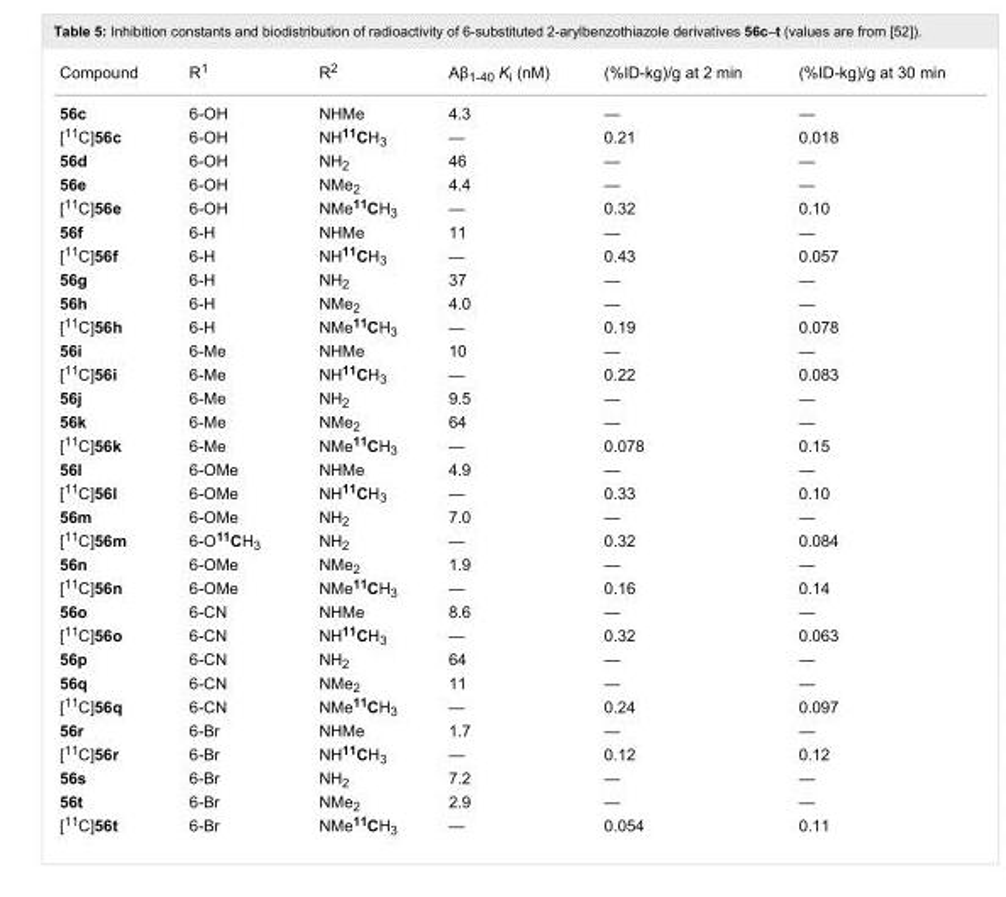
<table><tbody><tr><td>Compound</td><td>R<sup>1</sup></td><td>R<sup>2</sup></td><td>Aβ<sub>1-40</sub> K<sub>i</sub> (nM)</td><td>(%ID-kg)/g at 2 min</td><td>(%ID-kg)/g at 30 min</td></tr><tr><td>56c</td><td>6-OH</td><td>NHMe</td><td>4.3</td><td>—</td><td>—</td></tr><tr><td>[<sup>11</sup>C]56c</td><td>6-OH</td><td>NH<sup>11</sup>CH<sub>3</sub></td><td>—</td><td>0.21</td><td>0.018</td></tr><tr><td>56d</td><td>6-OH</td><td>NH<sub>2</sub></td><td>46</td><td>—</td><td>—</td></tr><tr><td>56e</td><td>6-OH</td><td>NMe<sub>2</sub></td><td>4.4</td><td>—</td><td>—</td></tr><tr><td>[<sup>11</sup>C]56e</td><td>6-OH</td><td>NMe<sup>11</sup>CH<sub>3</sub></td><td>—</td><td>0.32</td><td>0.10</td></tr><tr><td>56f</td><td>6-H</td><td>NHMe</td><td>11</td><td>—</td><td>—</td></tr><tr><td>[<sup>11</sup>C]56f</td><td>6-H</td><td>NH<sup>11</sup>CH<sub>3</sub></td><td>—</td><td>0.43</td><td>0.057</td></tr><tr><td>56g</td><td>6-H</td><td>NH<sub>2</sub></td><td>37</td><td>—</td><td>—</td></tr><tr><td>56h</td><td>6-H</td><td>NMe<sub>2</sub></td><td>4.0</td><td>—</td><td>—</td></tr><tr><td>[<sup>11</sup>C]56h</td><td>6-H</td><td>NMe<sup>11</sup>CH<sub>3</sub></td><td>—</td><td>0.19</td><td>0.078</td></tr><tr><td>56i</td><td>6-Me</td><td>NHMe</td><td>10</td><td>—</td><td>—</td></tr><tr><td>[<sup>11</sup>C]56i</td><td>6-Me</td><td>NH<sup>11</sup>CH<sub>3</sub></td><td>—</td><td>0.22</td><td>0.083</td></tr><tr><td>56j</td><td>6-Me</td><td>NH<sub>2</sub></td><td>9.5</td><td>—</td><td>—</td></tr><tr><td>56k</td><td>6-Me</td><td>NMe<sub>2</sub></td><td>64</td><td>—</td><td>—</td></tr><tr><td>[<sup>11</sup>C]56k</td><td>6-Me</td><td>NMe<sup>11</sup>CH<sub>3</sub></td><td>—</td><td>0.078</td><td>0.15</td></tr><tr><td>56l</td><td>6-OMe</td><td>NHMe</td><td>4.9</td><td>—</td><td>—</td></tr><tr><td>[<sup>11</sup>C]56l</td><td>6-OMe</td><td>NH<sup>11</sup>CH<sub>3</sub></td><td>—</td><td>0.33</td><td>0.10</td></tr><tr><td>56m</td><td>6-OMe</td><td>NH<sub>2</sub></td><td>7.0</td><td>—</td><td>—</td></tr><tr><td>[<sup>11</sup>C]56m</td><td>6-O<sup>11</sup>CH<sub>3</sub></td><td>NH<sub>2</sub></td><td>—</td><td>0.32</td><td>0.084</td></tr><tr><td>56n</td><td>6-OMe</td><td>NMe<sub>2</sub></td><td>1.9</td><td>—</td><td>—</td></tr><tr><td>[<sup>11</sup>C]56n</td><td>6-OMe</td><td>NMe<sup>11</sup>CH<sub>3</sub></td><td>—</td><td>0.16</td><td>0.14</td></tr><tr><td>56o</td><td>6-CN</td><td>NHMe</td><td>8.6</td><td>—</td><td>—</td></tr><tr><td>[<sup>11</sup>C]56o</td><td>6-CN</td><td>NH<sup>11</sup>CH<sub>3</sub></td><td>—</td><td>0.32</td><td>0.063</td></tr><tr><td>56p</td><td>6-CN</td><td>NH<sub>2</sub></td><td>64</td><td>—</td><td>—</td></tr><tr><td>56q</td><td>6-CN</td><td>NMe<sub>2</sub></td><td>11</td><td>—</td><td>—</td></tr><tr><td>[<sup>11</sup>C]56q</td><td>6-CN</td><td>NMe<sup>11</sup>CH<sub>3</sub></td><td>—</td><td>0.24</td><td>0.097</td></tr><tr><td>56r</td><td>6-Br</td><td>NHMe</td><td>1.7</td><td>—</td><td>—</td></tr><tr><td>[<sup>11</sup>C]56r</td><td>6-Br</td><td>NH<sup>11</sup>CH<sub>3</sub></td><td>—</td><td>0.12</td><td>0.12</td></tr><tr><td>56s</td><td>6-Br</td><td>NH<sub>2</sub></td><td>7.2</td><td>—</td><td>—</td></tr><tr><td>56t</td><td>6-Br</td><td>NMe<sub>2</sub></td><td>2.9</td><td>—</td><td>—</td></tr><tr><td>[<sup>11</sup>C]56t</td><td>6-Br</td><td>NMe<sup>11</sup>CH<sub>3</sub></td><td>—</td><td>0.054</td><td>0.11</td></tr></tbody></table>